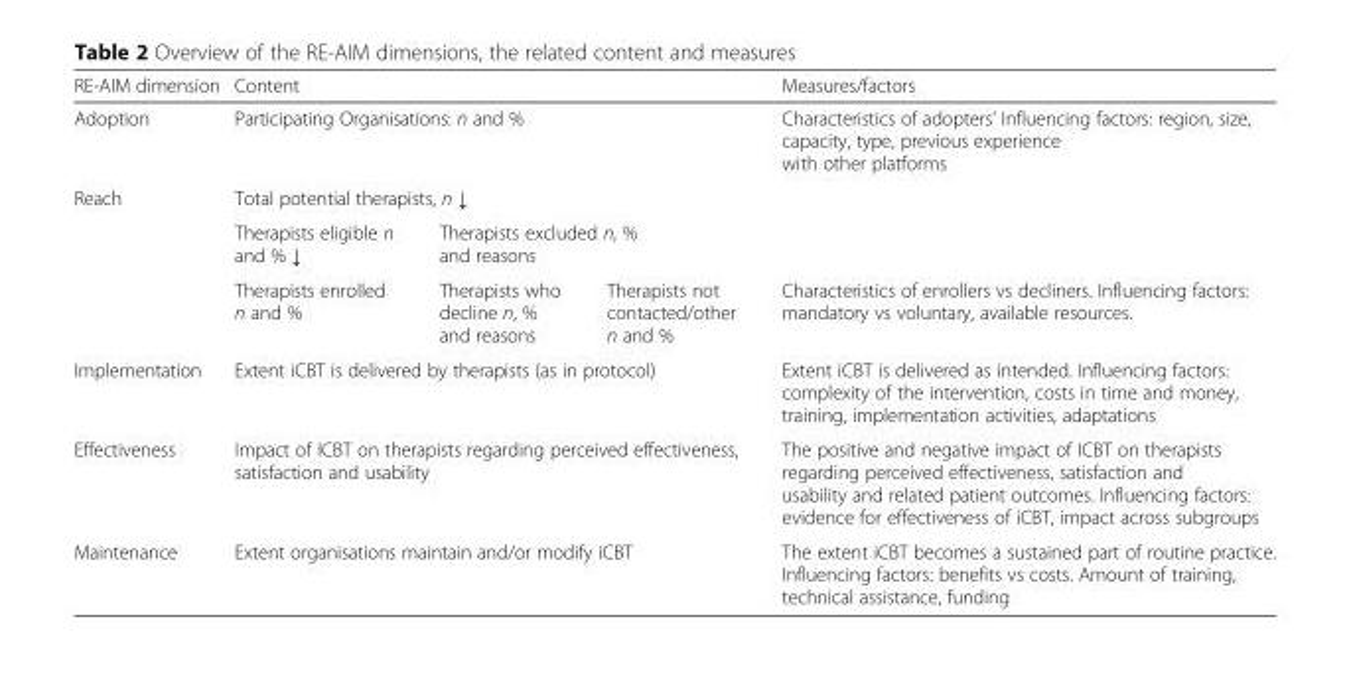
<table><thead><tr><td>RE-AIM dimension</td><td colspan="3">Content</td><td>Measures/factors</td></tr></thead><tbody><tr><td>Adoption</td><td colspan="3">Participating Organisations: n and %</td><td>Characteristics of adopters’ Influencing factors: region, size, capacity, type, previous experience with other platforms</td></tr><tr><td rowspan="3">Reach</td><td colspan="3">Total potential therapists, n ↓</td><td></td></tr><tr><td>Therapists eligible n and % ↓</td><td colspan="2">Therapists excluded n, % and reasons</td><td></td></tr><tr><td>Therapists enrolled n and %</td><td>Therapists who decline n, % and reasons</td><td>Therapists not contacted/other n and %</td><td>Characteristics of enrollers vs decliners. Influencing factors: mandatory vs voluntary, available resources.</td></tr><tr><td>Implementation</td><td colspan="3">Extent iCBT is delivered by therapists (as in protocol)</td><td>Extent iCBT is delivered as intended. Influencing factors: complexity of the intervention, costs in time and money, training, implementation activities, adaptations</td></tr><tr><td>Effectiveness</td><td colspan="3">Impact of ICBT on therapists regarding perceived effectiveness, satisfaction and usability</td><td>The positive and negative impact of ICBT on therapists regarding perceived effectiveness, satisfaction and usability and related patient outcomes. Influencing factors: evidence for effectiveness of iCBT, impact across subgroups</td></tr><tr><td>Maintenance</td><td colspan="3">Extent organisations maintain and/or modify iCBT</td><td>The extent iCBT becomes a sustained part of routine practice. Influencing factors: benefits vs costs. Amount of training, technical assistance, funding</td></tr></tbody></table>